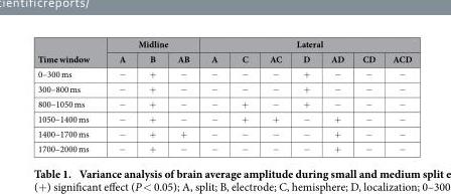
<table><thead><tr><td rowspan="2">Time window</td><td colspan="3">Midline</td><td colspan="7">Lateral</td></tr><tr><td>A</td><td>B</td><td>AB</td><td>A</td><td>C</td><td>AC</td><td>D</td><td>AD</td><td>CD</td><td>ACD</td></tr></thead><tbody><tr><td>0–300 ms</td><td>−</td><td>+</td><td>−</td><td>−</td><td>−</td><td>−</td><td>+</td><td>−</td><td>−</td><td>−</td></tr><tr><td>300–800 ms</td><td>−</td><td>+</td><td>−</td><td>−</td><td>−</td><td>−</td><td>+</td><td>−</td><td>−</td><td>−</td></tr><tr><td>800–1050 ms</td><td>−</td><td>+</td><td>−</td><td>−</td><td>+</td><td>−</td><td>+</td><td>−</td><td>−</td><td>−</td></tr><tr><td>1050–1400 ms</td><td>−</td><td>+</td><td>−</td><td>−</td><td>+</td><td>+</td><td>−</td><td>+</td><td>−</td><td>−</td></tr><tr><td>1400–1700 ms</td><td>−</td><td>+</td><td>+</td><td>−</td><td>−</td><td>−</td><td>−</td><td>+</td><td>−</td><td>−</td></tr><tr><td>1700–2000 ms</td><td>−</td><td>+</td><td>−</td><td>−</td><td>−</td><td>−</td><td>−</td><td>+</td><td>−</td><td>−</td></tr></tbody></table>